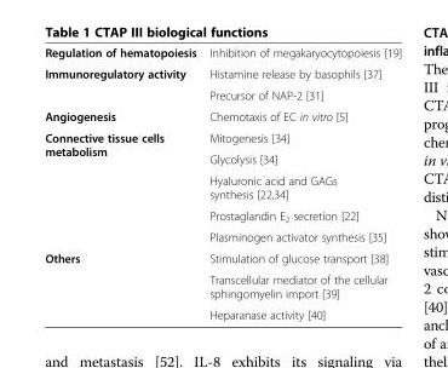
<table><tbody><tr><td>Regulation of hematopoiesis</td><td>Inhibition of megakaryocytopoiesis [19]</td></tr><tr><td rowspan="2">Immunoregulatory activity</td><td>Histamine release by basophils [37]</td></tr><tr><td>Precursor of NAP-2 [31]</td></tr><tr><td>Angiogenesis</td><td>Chemotaxis of EC in vitro [5]</td></tr><tr><td rowspan="5">Connective tissue cells metabolism</td><td>Mitogenesis [34]</td></tr><tr><td>Glycolysis [34]</td></tr><tr><td>Hyaluronic acid and GAGs synthesis [22,34]</td></tr><tr><td>Prostaglandin E<sub>2</sub> secretion [22]</td></tr><tr><td>Plasminogen activator synthesis [35]</td></tr><tr><td rowspan="3">Others</td><td>Stimulation of glucose transport [38]</td></tr><tr><td>Transcellular mediator of the cellular sphingomyelin import [39]</td></tr><tr><td>Heparanase activity [40]</td></tr></tbody></table>